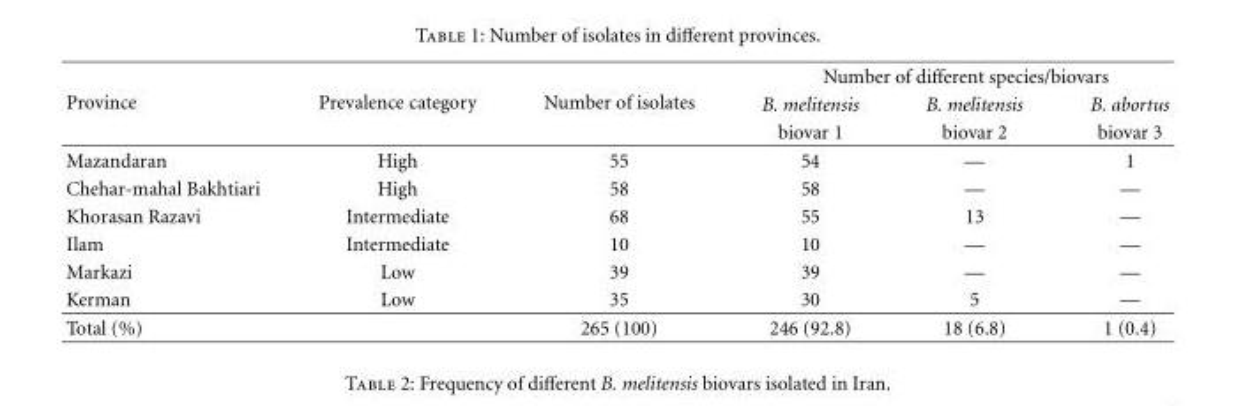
<table><thead><tr><td rowspan="3">Province</td><td rowspan="3">Prevalence category</td><td rowspan="3">Number of isolates</td><td colspan="3">Number of different species/biovars</td></tr><tr><td rowspan="2">B. melitensis biovar 1</td><td rowspan="2">B. melitensis biovar 2</td><td rowspan="2">B. abortus biovar 3</td></tr><tr></tr></thead><tbody><tr><td>Mazandaran</td><td>High</td><td>55</td><td>54</td><td>—</td><td>1</td></tr><tr><td>Chehar-mahal Bakhtiari</td><td>High</td><td>58</td><td>58</td><td>—</td><td>—</td></tr><tr><td>Khorasan Razavi</td><td>Intermediate</td><td>68</td><td>55</td><td>13</td><td>—</td></tr><tr><td>Ilam</td><td>Intermediate</td><td>10</td><td>10</td><td>—</td><td>—</td></tr><tr><td>Markazi</td><td>Low</td><td>39</td><td>39</td><td>—</td><td>—</td></tr><tr><td>Kerman</td><td>Low</td><td>35</td><td>30</td><td>5</td><td>—</td></tr><tr><td>Total (%)</td><td></td><td>265 (100)</td><td>246 (92.8)</td><td>18 (6.8)</td><td>1 (0.4)</td></tr></tbody></table>